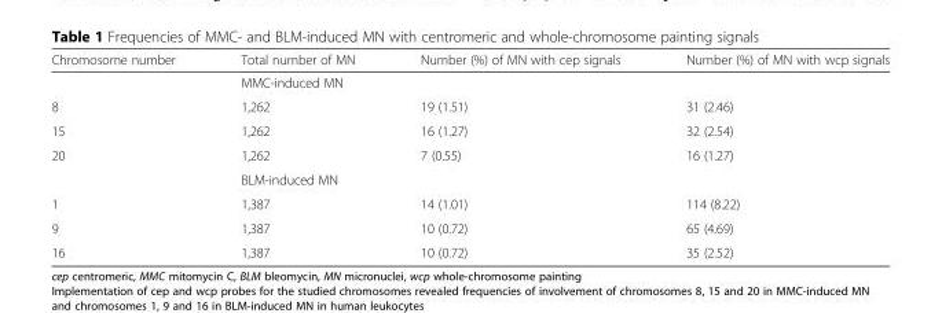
<table><thead><tr><td>Chromosome number</td><td>Total number of MN</td><td>Number (%) of MN with cep signals</td><td>Number (%) of MN with wcp signals</td></tr></thead><tbody><tr><td></td><td colspan="3">MMC-induced MN</td></tr><tr><td>8</td><td>1,262</td><td>19 (1.51)</td><td>31 (2.46)</td></tr><tr><td>15</td><td>1,262</td><td>16 (1.27)</td><td>32 (2.54)</td></tr><tr><td rowspan="2">20</td><td>1,262</td><td>7 (0.55)</td><td>16 (1.27)</td></tr><tr><td colspan="3">BLM-induced MN</td></tr><tr><td>1</td><td>1,387</td><td>14 (1.01)</td><td>114 (8.22)</td></tr><tr><td>9</td><td>1,387</td><td>10 (0.72)</td><td>65 (4.69)</td></tr><tr><td>16</td><td>1,387</td><td>10 (0.72)</td><td>35 (2.52)</td></tr></tbody></table>